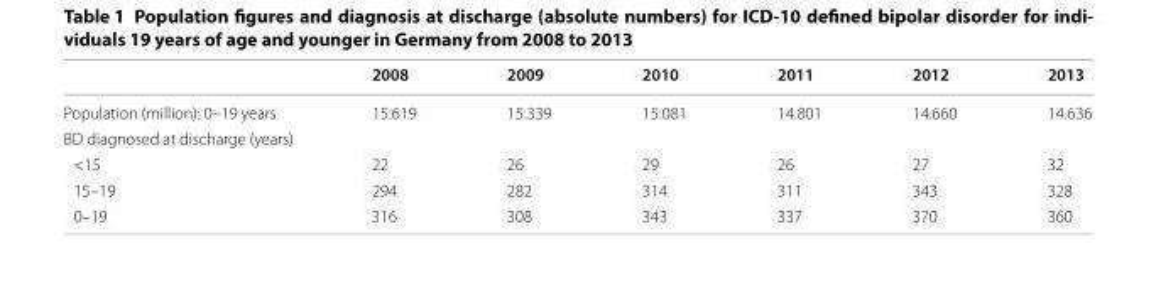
<table><thead><tr><td></td><td>2008</td><td>2009</td><td>2010</td><td>2011</td><td>2012</td><td>2013</td></tr></thead><tbody><tr><td>Population (million): 0–19 years</td><td>15.619</td><td>15.339</td><td>15.081</td><td>14.801</td><td>14.660</td><td>14.636</td></tr><tr><td colspan="7">BD diagnosed at discharge (years)</td></tr><tr><td>&lt;15</td><td>22</td><td>26</td><td>29</td><td>26</td><td>27</td><td>32</td></tr><tr><td>15–19</td><td>294</td><td>282</td><td>314</td><td>311</td><td>343</td><td>328</td></tr><tr><td>0–19</td><td>316</td><td>308</td><td>343</td><td>337</td><td>370</td><td>360</td></tr></tbody></table>